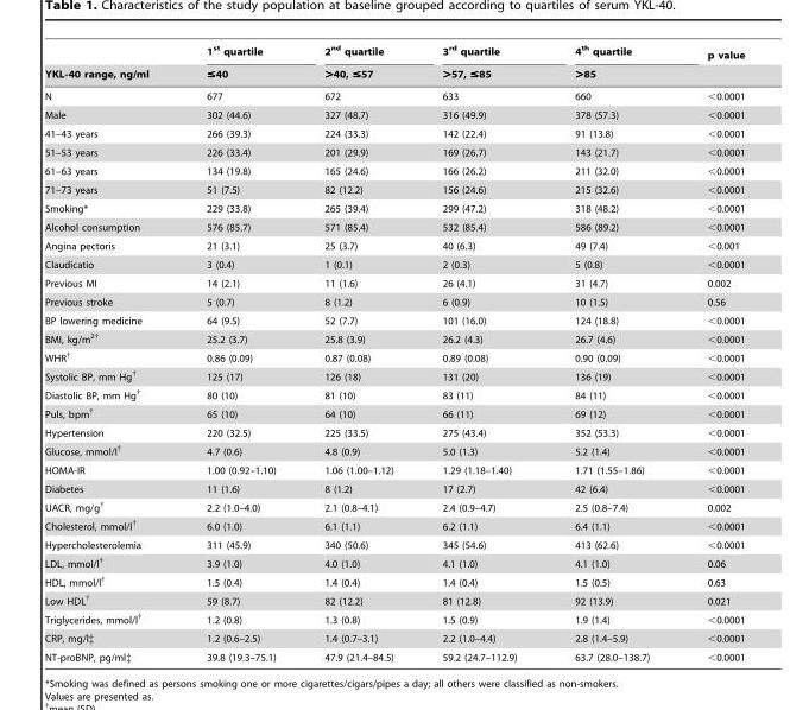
<table><thead><tr><td rowspan="2">YKL-40 range, ng/ml</td><td rowspan="2">1<sup>st</sup> quartile ≤40</td><td rowspan="2">2<sup>nd</sup> quartile &gt;40, ≤57</td><td rowspan="2">3<sup>rd</sup> quartile &gt;57, ≤85</td><td rowspan="2">4<sup>th</sup> quartile &gt;85</td><td rowspan="2">p value</td></tr><tr></tr></thead><tbody><tr><td>N</td><td>677</td><td>672</td><td>633</td><td>660</td><td>&lt;0.0001</td></tr><tr><td>Male</td><td>302 (44.6)</td><td>327 (48.7)</td><td>316 (49.9)</td><td>378 (57.3)</td><td>&lt;0.0001</td></tr><tr><td>41–43 years</td><td>266 (39.3)</td><td>224 (33.3)</td><td>142 (22.4)</td><td>91 (13.8)</td><td>&lt;0.0001</td></tr><tr><td>51–53 years</td><td>226 (33.4)</td><td>201 (29.9)</td><td>169 (26.7)</td><td>143 (21.7)</td><td>&lt;0.0001</td></tr><tr><td>61–63 years</td><td>134 (19.8)</td><td>165 (24.6)</td><td>166 (26.2)</td><td>211 (32.0)</td><td>&lt;0.0001</td></tr><tr><td>71–73 years</td><td>51 (7.5)</td><td>82 (12.2)</td><td>156 (24.6)</td><td>215 (32.6)</td><td>&lt;0.0001</td></tr><tr><td>Smoking*</td><td>229 (33.8)</td><td>265 (39.4)</td><td>299 (47.2)</td><td>318 (48.2)</td><td>&lt;0.0001</td></tr><tr><td>Alcohol consumption</td><td>576 (85.7)</td><td>571 (85.4)</td><td>532 (85.4)</td><td>586 (89.2)</td><td>&lt;0.0001</td></tr><tr><td>Angina pectoris</td><td>21 (3.1)</td><td>25 (3.7)</td><td>40 (6.3)</td><td>49 (7.4)</td><td>&lt;0.001</td></tr><tr><td>Claudicatio</td><td>3 (0.4)</td><td>1 (0.1)</td><td>2 (0.3)</td><td>5 (0.8)</td><td>&lt;0.0001</td></tr><tr><td>Previous MI</td><td>14 (2.1)</td><td>11 (1.6)</td><td>26 (4.1)</td><td>31 (4.7)</td><td>0.002</td></tr><tr><td>Previous stroke</td><td>5 (0.7)</td><td>8 (1.2)</td><td>6 (0.9)</td><td>10 (1.5)</td><td>0.56</td></tr><tr><td>BP lowering medicine</td><td>64 (9.5)</td><td>52 (7.7)</td><td>101 (16.0)</td><td>124 (18.8)</td><td>&lt;0.0001</td></tr><tr><td>BMI, kg/m<sup>2</sup>†</td><td>25.2 (3.7)</td><td>25.8 (3.9)</td><td>26.2 (4.3)</td><td>26.7 (4.6)</td><td>&lt;0.0001</td></tr><tr><td>WHR†</td><td>0.86 (0.09)</td><td>0.87 (0.08)</td><td>0.89 (0.08)</td><td>0.90 (0.09)</td><td>&lt;0.0001</td></tr><tr><td>Systolic BP, mm Hg†</td><td>125 (17)</td><td>126 (18)</td><td>131 (20)</td><td>136 (19)</td><td>&lt;0.0001</td></tr><tr><td>Diastolic BP, mm Hg†</td><td>80 (10)</td><td>81 (10)</td><td>83 (11)</td><td>84 (11)</td><td>&lt;0.0001</td></tr><tr><td>Puls, bpm†</td><td>65 (10)</td><td>64 (10)</td><td>66 (11)</td><td>69 (12)</td><td>&lt;0.0001</td></tr><tr><td>Hypertension</td><td>220 (32.5)</td><td>225 (33.5)</td><td>275 (43.4)</td><td>352 (53.3)</td><td>&lt;0.0001</td></tr><tr><td>Glucose, mmol/l†</td><td>4.7 (0.6)</td><td>4.8 (0.9)</td><td>5.0 (1.3)</td><td>5.2 (1.4)</td><td>&lt;0.0001</td></tr><tr><td>HOMA-IR</td><td>1.00 (0.92–1.10)</td><td>1.06 (1.00–1.12)</td><td>1.29 (1.18–1.40)</td><td>1.71 (1.55–1.86)</td><td>&lt;0.0001</td></tr><tr><td>Diabetes</td><td>11 (1.6)</td><td>8 (1.2)</td><td>17 (2.7)</td><td>42 (6.4)</td><td>&lt;0.0001</td></tr><tr><td>UACR, mg/g†</td><td>2.2 (1.0–4.0)</td><td>2.1 (0.8–4.1)</td><td>2.4 (0.9–4.7)</td><td>2.5 (0.8–7.4)</td><td>0.002</td></tr><tr><td>Cholesterol, mmol/l†</td><td>6.0 (1.0)</td><td>6.1 (1.1)</td><td>6.2 (1.1)</td><td>6.4 (1.1)</td><td>&lt;0.0001</td></tr><tr><td>Hypercholesterolemia</td><td>311 (45.9)</td><td>340 (50.6)</td><td>345 (54.6)</td><td>413 (62.6)</td><td>&lt;0.0001</td></tr><tr><td>LDL, mmol/l†</td><td>3.9 (1.0)</td><td>4.0 (1.0)</td><td>4.1 (1.0)</td><td>4.1 (1.0)</td><td>0.06</td></tr><tr><td>HDL, mmol/l†</td><td>1.5 (0.4)</td><td>1.4 (0.4)</td><td>1.4 (0.4)</td><td>1.5 (0.5)</td><td>0.63</td></tr><tr><td>Low HDL†</td><td>59 (8.7)</td><td>82 (12.2)</td><td>81 (12.8)</td><td>92 (13.9)</td><td>0.021</td></tr><tr><td>Triglycerides, mmol/l†</td><td>1.2 (0.8)</td><td>1.3 (0.8)</td><td>1.5 (0.9)</td><td>1.9 (1.4)</td><td>&lt;0.0001</td></tr><tr><td>CRP, mg/l‡</td><td>1.2 (0.6–2.5)</td><td>1.4 (0.7–3.1)</td><td>2.2 (1.0–4.4)</td><td>2.8 (1.4–5.9)</td><td>&lt;0.0001</td></tr><tr><td>NT-proBNP, pg/ml‡</td><td>39.8 (19.3–75.1)</td><td>47.9 (21.4–84.5)</td><td>59.2 (24.7–112.9)</td><td>63.7 (28.0–138.7)</td><td>&lt;0.0001</td></tr></tbody></table>